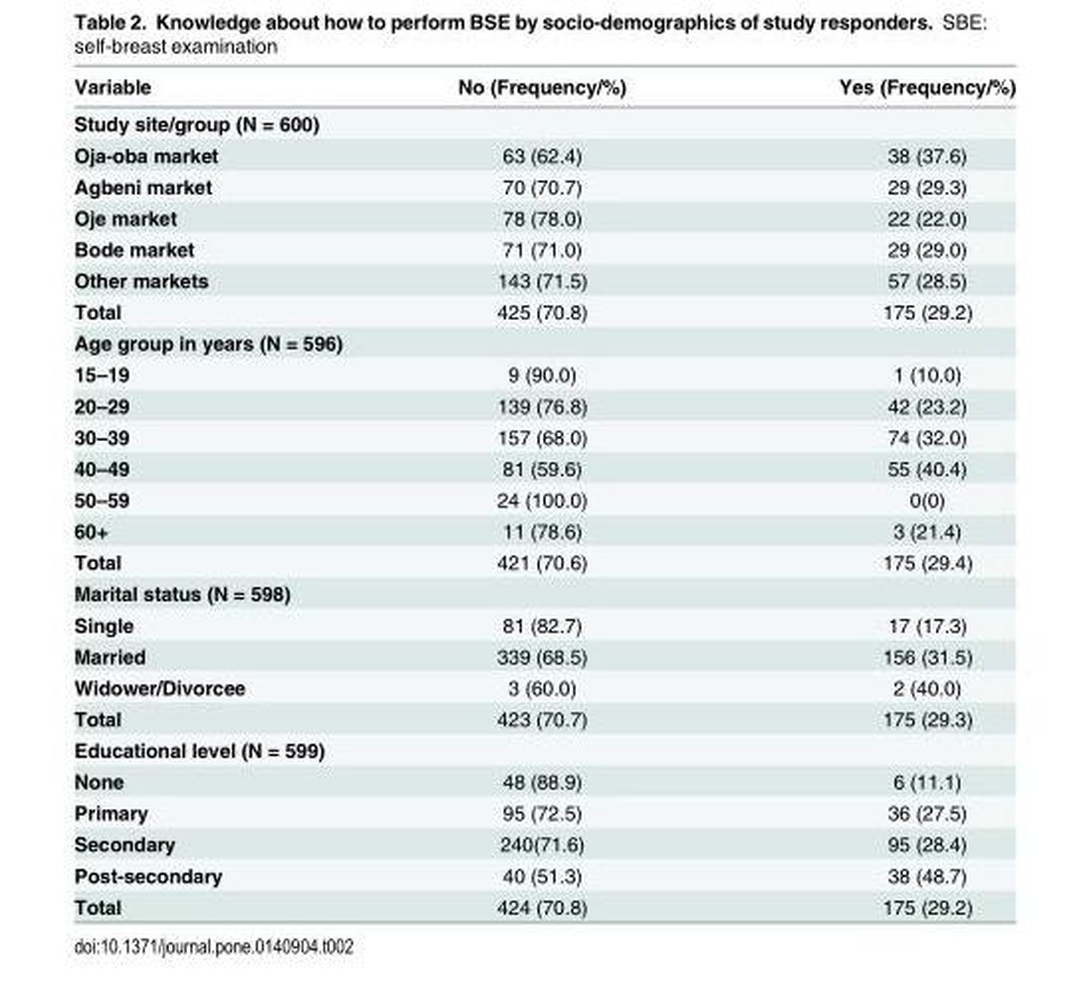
<table><thead><tr><td>Variable</td><td>No (Frequency/%)</td><td>Yes (Frequency/%)</td></tr></thead><tbody><tr><td colspan="3">Study site/group (N = 600)</td></tr><tr><td>Oja-oba market</td><td>63 (62.4)</td><td>38 (37.6)</td></tr><tr><td>Agbeni market</td><td>70 (70.7)</td><td>29 (29.3)</td></tr><tr><td>Oje market</td><td>78 (78.0)</td><td>22 (22.0)</td></tr><tr><td>Bode market</td><td>71 (71.0)</td><td>29 (29.0)</td></tr><tr><td>Other markets</td><td>143 (71.5)</td><td>57 (28.5)</td></tr><tr><td>Total</td><td>425 (70.8)</td><td>175 (29.2)</td></tr><tr><td colspan="3">Age group in years (N = 596)</td></tr><tr><td>15–19</td><td>9 (90.0)</td><td>1 (10.0)</td></tr><tr><td>20–29</td><td>139 (76.8)</td><td>42 (23.2)</td></tr><tr><td>30–39</td><td>157 (68.0)</td><td>74 (32.0)</td></tr><tr><td>40–49</td><td>81 (59.6)</td><td>55 (40.4)</td></tr><tr><td>50–59</td><td>24 (100.0)</td><td>0(0)</td></tr><tr><td>60+</td><td>11 (78.6)</td><td>3 (21.4)</td></tr><tr><td>Total</td><td>421 (70.6)</td><td>175 (29.4)</td></tr><tr><td colspan="3">Marital status (N = 598)</td></tr><tr><td>Single</td><td>81 (82.7)</td><td>17 (17.3)</td></tr><tr><td>Married</td><td>339 (68.5)</td><td>156 (31.5)</td></tr><tr><td>Widower/Divorcee</td><td>3 (60.0)</td><td>2 (40.0)</td></tr><tr><td>Total</td><td>423 (70.7)</td><td>175 (29.3)</td></tr><tr><td colspan="3">Educational level (N = 599)</td></tr><tr><td>None</td><td>48 (88.9)</td><td>6 (11.1)</td></tr><tr><td>Primary</td><td>95 (72.5)</td><td>36 (27.5)</td></tr><tr><td>Secondary</td><td>240(71.6)</td><td>95 (28.4)</td></tr><tr><td>Post-secondary</td><td>40 (51.3)</td><td>38 (48.7)</td></tr><tr><td>Total</td><td>424 (70.8)</td><td>175 (29.2)</td></tr></tbody></table>